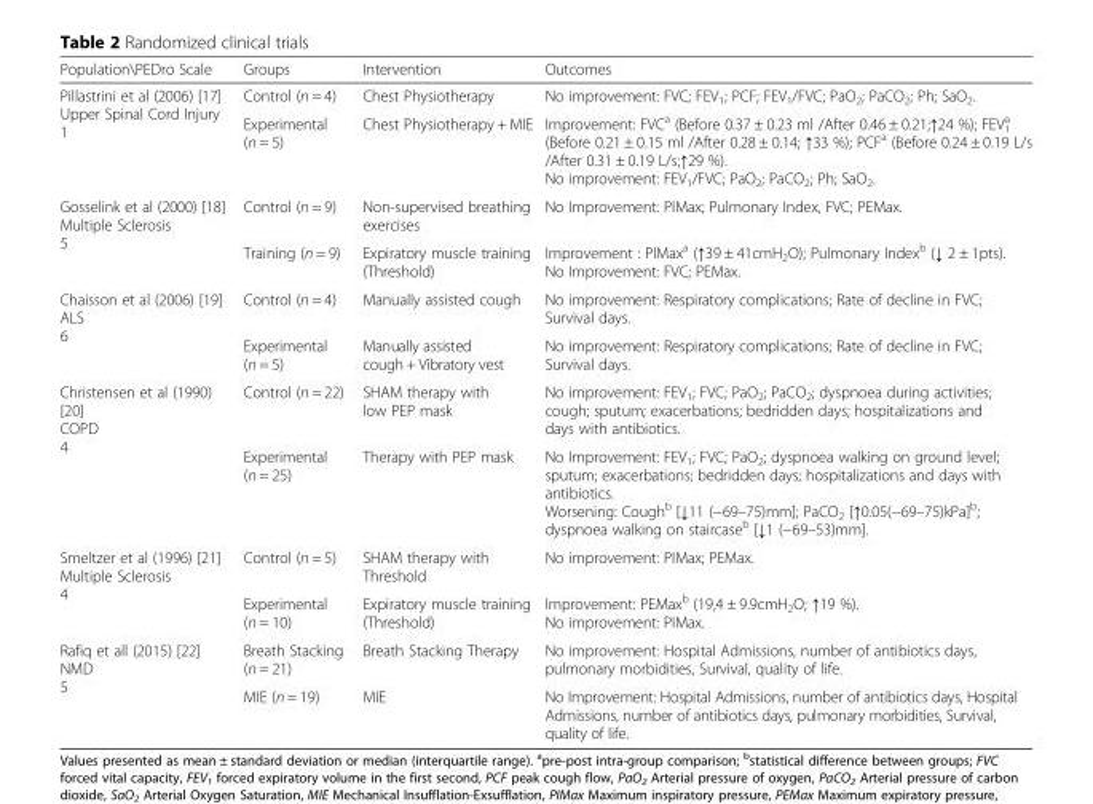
<table><thead><tr><td>Population\PEDro Scale</td><td>Groups</td><td>Intervention</td><td>Outcomes</td></tr></thead><tbody><tr><td rowspan="2">Pillastrini et al (2006) [17] Upper Spinal Cord Injury 1</td><td>Control (n = 4)</td><td>Chest Physiotherapy</td><td>No improvement: FVC; FEV<sub>1</sub>; PCF; FEV<sub>1</sub>/FVC; PaO<sub>2</sub>; PaCO<sub>2</sub>; Ph; SaO<sub>2</sub>.</td></tr><tr><td>Experimental (n = 5)</td><td>Chest Physiotherapy + MIE</td><td>Improvement: FVC<sup>a</sup> (Before 0.37 ± 0.23 ml /After 0.46 ± 0.21;↑24 %); FEV<sub>1</sub> <sup>a</sup> (Before 0.21 ± 0.15 ml /After 0.28 ± 0.14; ↑33 %); PCF<sup>a</sup> (Before 0.24 ± 0.19 L/s /After 0.31 ± 0.19 L/s;↑29 %). No improvement: FEV<sub>1</sub>/FVC; PaO<sub>2</sub>; PaCO<sub>2</sub>; Ph; SaO<sub>2</sub>.</td></tr><tr><td rowspan="2">Gosselink et al (2000) [18] Multiple Sclerosis 5</td><td>Control (n = 9)</td><td>Non-supervised breathing exercises</td><td>No Improvement: PIMax; Pulmonary Index, FVC; PEMax.</td></tr><tr><td>Training (n = 9)</td><td>Expiratory muscle training (Threshold)</td><td>Improvement : PIMax<sup>a</sup> (↑39 ± 41cmH<sub>2</sub>O); Pulmonary Index<sup>b</sup> (↓ 2 ± 1pts). No Improvement: FVC; PEMax.</td></tr><tr><td rowspan="2">Chaisson et al (2006) [19] ALS 6</td><td>Control (n = 4)</td><td>Manually assisted cough</td><td>No improvement: Respiratory complications; Rate of decline in FVC; Survival days.</td></tr><tr><td>Experimental (n = 5)</td><td>Manually assisted cough + Vibratory vest</td><td>No improvement: Respiratory complications; Rate of decline in FVC; Survival days.</td></tr><tr><td rowspan="2">Christensen et al (1990) [20] COPD 4</td><td>Control (n = 22)</td><td>SHAM therapy with low PEP mask</td><td>No improvement: FEV<sub>1</sub>; FVC; PaO<sub>2</sub>; PaCO<sub>2</sub>; dyspnoea during activities; cough; sputum; exacerbations; bedridden days; hospitalizations and days with antibiotics.</td></tr><tr><td>Experimental (n = 25)</td><td>Therapy with PEP mask</td><td>No Improvement: FEV<sub>1</sub>; FVC; PaO<sub>2</sub>; dyspnoea walking on ground level; sputum; exacerbations; bedridden days; hospitalizations and days with antibiotics. Worsening: Cough<sup>b</sup> [↓11 (−69–75)mm]; PaCO<sub>2</sub> [↑0.05(−69–75)kPa]<sup>b</sup>; dyspnoea walking on staircase<sup>b</sup> [↓1 (−69–53)mm].</td></tr><tr><td rowspan="2">Smeltzer et al (1996) [21] Multiple Sclerosis 4</td><td>Control (n = 5)</td><td>SHAM therapy with Threshold</td><td>No improvement: PIMax; PEMax.</td></tr><tr><td>Experimental (n = 10)</td><td>Expiratory muscle training (Threshold)</td><td>Improvement: PEMax<sup>b</sup> (19,4 ± 9.9cmH<sub>2</sub>O; ↑19 %). No improvement: PIMax.</td></tr><tr><td rowspan="2">Rafiq et all (2015) [22] NMD 5</td><td>Breath Stacking (n = 21)</td><td>Breath Stacking Therapy</td><td>No improvement: Hospital Admissions, number of antibiotics days, pulmonary morbidities, Survival, quality of life.</td></tr><tr><td>MIE (n = 19)</td><td>MIE</td><td>No Improvement: Hospital Admissions, number of antibiotics days, Hospital Admissions, number of antibiotics days, pulmonary morbidities, Survival, quality of life.</td></tr></tbody></table>